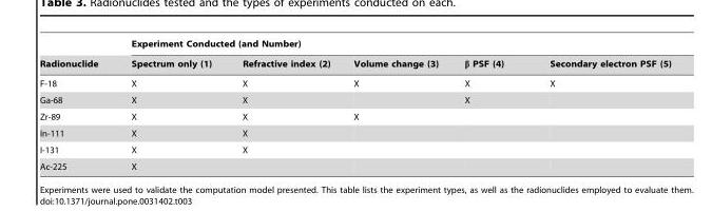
<table><thead><tr><td rowspan="2">Radionuclide</td><td colspan="5">Experiment Conducted (and Number)</td></tr><tr><td>Spectrum only (1)</td><td>Refractive index (2)</td><td>Volume change (3)</td><td>β PSF (4)</td><td>Secondary electron PSF (5)</td></tr></thead><tbody><tr><td>F-18</td><td>X</td><td>X</td><td>X</td><td>X</td><td>X</td></tr><tr><td>Ga-68</td><td>X</td><td>X</td><td></td><td>X</td><td></td></tr><tr><td>Zr-89</td><td>X</td><td>X</td><td>X</td><td></td><td></td></tr><tr><td>In-111</td><td>X</td><td>X</td><td></td><td></td><td></td></tr><tr><td>I-131</td><td>X</td><td>X</td><td></td><td></td><td></td></tr><tr><td>Ac-225</td><td>X</td><td></td><td></td><td></td><td></td></tr></tbody></table>